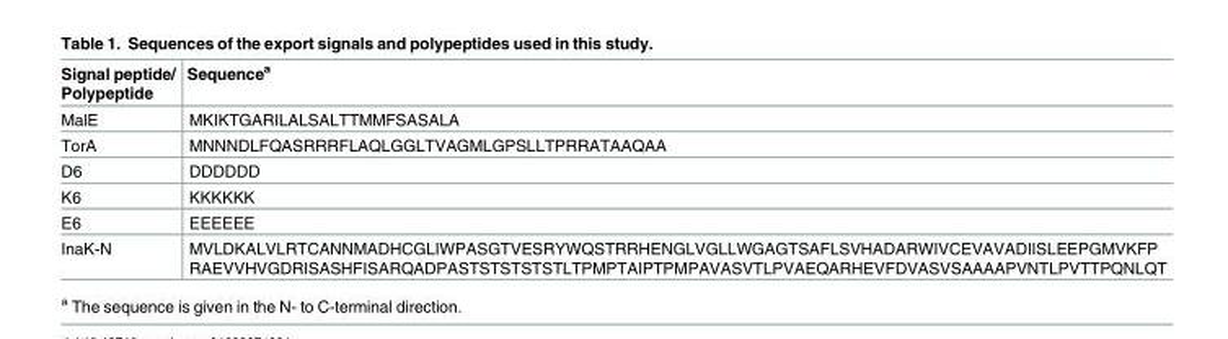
<table><thead><tr><td>Signal peptide/ Polypeptide</td><td>Sequence<sup>a</sup></td></tr></thead><tbody><tr><td>MalE</td><td>MKIKTGARILALSALTTMMFSASALA</td></tr><tr><td>TorA</td><td>MNNNDLFQASRRRFLAQLGGLTVAGMLGPSLLTPRRATAAQAA</td></tr><tr><td>D6</td><td>DDDDDD</td></tr><tr><td>K6</td><td>KKKKKK</td></tr><tr><td>E6</td><td>EEEEEE</td></tr><tr><td>InaK-N</td><td>MVLDKALVLRTCANNMADHCGLIWPASGTVESRYWQSTRRHENGLVGLLWGAGTSAFLSVHADARWIVCEVAVADIISLEEPGMVKFP RAEVVHVGDRISASHFISARQADPASTSTSTSTSTLTPMPTAIPTPMPAVASVTLPVAEQARHEVFDVASVSAAAAPVNTLPVTTPQNLQT</td></tr></tbody></table>